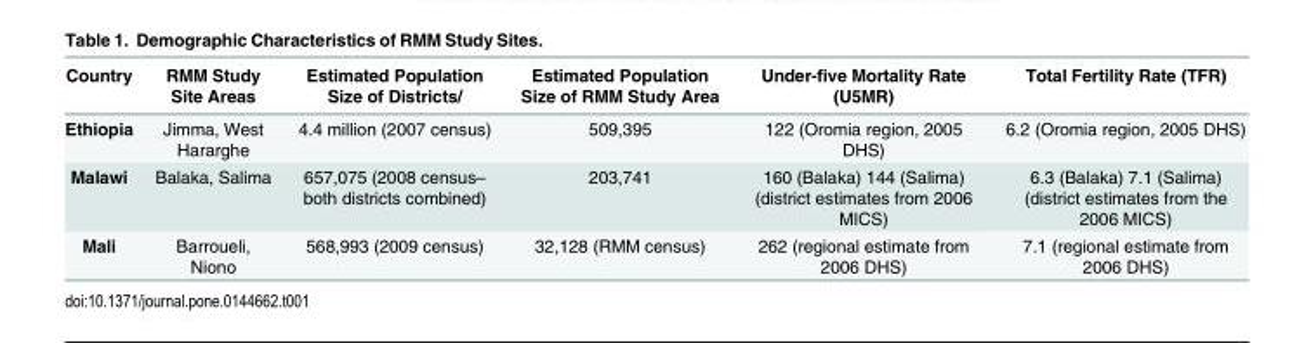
<table><thead><tr><td>Country</td><td>RMM Study Site Areas</td><td>Estimated Population Size of Districts/</td><td>Estimated Population Size of RMM Study Area</td><td>Under-five Mortality Rate (U5MR)</td><td>Total Fertility Rate (TFR)</td></tr></thead><tbody><tr><td>Ethiopia</td><td>Jimma, West Hararghe</td><td>4.4 million (2007 census)</td><td>509,395</td><td>122 (Oromia region, 2005 DHS)</td><td>6.2 (Oromia region, 2005 DHS)</td></tr><tr><td>Malawi</td><td>Balaka, Salima</td><td>657,075 (2008 census– both districts combined)</td><td>203,741</td><td>160 (Balaka) 144 (Salima) (district estimates from 2006 MICS)</td><td>6.3 (Balaka) 7.1 (Salima) (district estimates from the 2006 MICS)</td></tr><tr><td>Mali</td><td>Barroueli, Niono</td><td>568,993 (2009 census)</td><td>32,128 (RMM census)</td><td>262 (regional estimate from 2006 DHS)</td><td>7.1 (regional estimate from 2006 DHS)</td></tr></tbody></table>